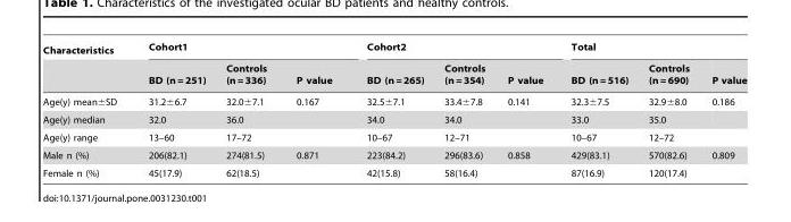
<table><thead><tr><td rowspan="2">Characteristics</td><td colspan="3">Cohort1</td><td colspan="3">Cohort2</td><td colspan="3">Total</td></tr><tr><td>BD (n = 251)</td><td>Controls (n = 336)</td><td>P value</td><td>BD (n = 265)</td><td>Controls (n = 354)</td><td>P value</td><td>BD (n = 516)</td><td>Controls (n = 690)</td><td>P value</td></tr></thead><tbody><tr><td>Age(y) mean±SD</td><td>31.2±6.7</td><td>32.0±7.1</td><td>0.167</td><td>32.5±7.1</td><td>33.4±7.8</td><td>0.141</td><td>32.3±7.5</td><td>32.9±8.0</td><td>0.186</td></tr><tr><td>Age(y) median</td><td>32.0</td><td>36.0</td><td></td><td>34.0</td><td>34.0</td><td></td><td>33.0</td><td>35.0</td><td></td></tr><tr><td>Age(y) range</td><td>13–60</td><td>17–72</td><td></td><td>10–67</td><td>12–71</td><td></td><td>10–67</td><td>12–72</td><td></td></tr><tr><td>Male n (%)</td><td>206(82.1)</td><td>274(81.5)</td><td>0.871</td><td>223(84.2)</td><td>296(83.6)</td><td>0.858</td><td>429(83.1)</td><td>570(82.6)</td><td>0.809</td></tr><tr><td>Female n (%)</td><td>45(17.9)</td><td>62(18.5)</td><td></td><td>42(15.8)</td><td>58(16.4)</td><td></td><td>87(16.9)</td><td>120(17.4)</td><td></td></tr></tbody></table>